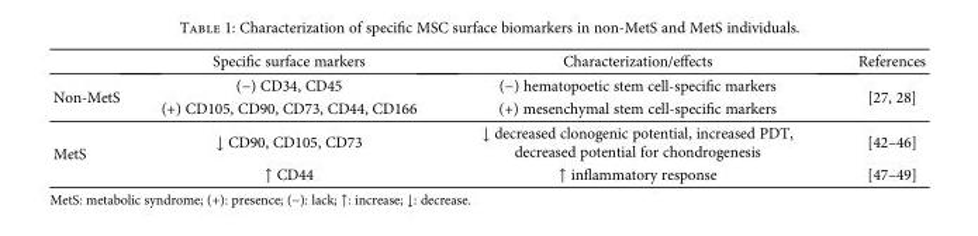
<table><thead><tr><td></td><td>Specific surface markers</td><td>Characterization/effects</td><td>References</td></tr></thead><tbody><tr><td rowspan="2">Non-MetS</td><td>(−) CD34, CD45</td><td>(−) hematopoetic stem cell-specific markers</td><td rowspan="2">[27, 28]</td></tr><tr><td>(+) CD105, CD90, CD73, CD44, CD166</td><td>(+) mesenchymal stem cell-specific markers</td></tr><tr><td rowspan="2">MetS</td><td>↓ CD90, CD105, CD73</td><td>↓ decreased clonogenic potential, increased PDT, decreased potential for chondrogenesis</td><td>[42–46]</td></tr><tr><td>↑ CD44</td><td>↑ inflammatory response</td><td>[47–49]</td></tr></tbody></table>